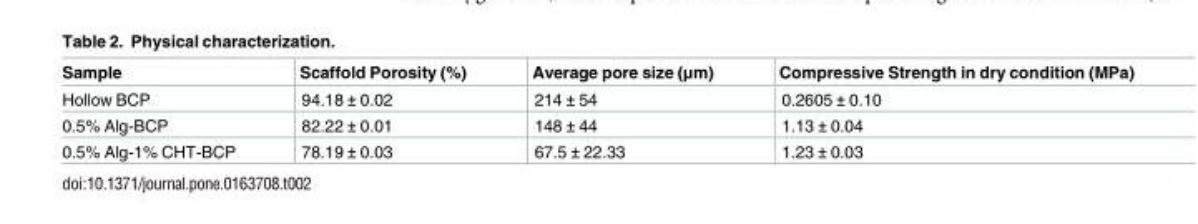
<table><thead><tr><td>Sample</td><td>Scaffold Porosity (%)</td><td>Average pore size (μm)</td><td>Compressive Strength in dry condition (MPa)</td></tr></thead><tbody><tr><td>Hollow BCP</td><td>94.18 ± 0.02</td><td>214 ± 54</td><td>0.2605 ± 0.10</td></tr><tr><td>0.5% Alg-BCP</td><td>82.22 ± 0.01</td><td>148 ± 44</td><td>1.13 ± 0.04</td></tr><tr><td>0.5% Alg-1% CHT-BCP</td><td>78.19 ± 0.03</td><td>67.5 ± 22.33</td><td>1.23 ± 0.03</td></tr></tbody></table>